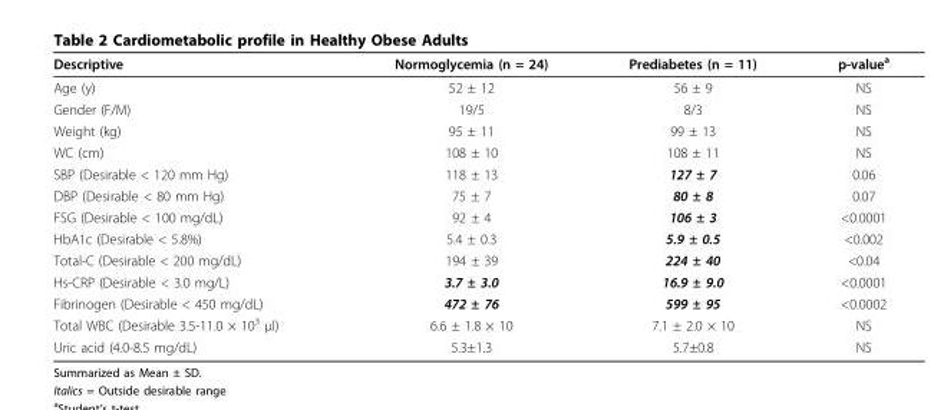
<table><thead><tr><td>Descriptive</td><td>Normoglycemia (n = 24)</td><td>Prediabetes (n = 11)</td><td>p-value<sup>a</sup></td></tr></thead><tbody><tr><td>Age (y)</td><td>52 ± 12</td><td>56 ± 9</td><td>NS</td></tr><tr><td>Gender (F/M)</td><td>19/5</td><td>8/3</td><td>NS</td></tr><tr><td>Weight (kg)</td><td>95 ± 11</td><td>99 ± 13</td><td>NS</td></tr><tr><td>WC (cm)</td><td>108 ± 10</td><td>108 ± 11</td><td>NS</td></tr><tr><td>SBP (Desirable &lt; 120 mm Hg)</td><td>118 ± 13</td><td>127 ± 7</td><td>0.06</td></tr><tr><td>DBP (Desirable &lt; 80 mm Hg)</td><td>75 ± 7</td><td>80 ± 8</td><td>0.07</td></tr><tr><td>FSG (Desirable &lt; 100 mg/dL)</td><td>92 ± 4</td><td>106 ± 3</td><td>&lt;0.0001</td></tr><tr><td>HbA1c (Desirable &lt; 5.8%)</td><td>5.4 ± 0.3</td><td>5.9 ± 0.5</td><td>&lt;0.002</td></tr><tr><td>Total-C (Desirable &lt; 200 mg/dL)</td><td>194 ± 39</td><td>224 ± 40</td><td>&lt;0.04</td></tr><tr><td>Hs-CRP (Desirable &lt; 3.0 mg/L)</td><td>3.7 ± 3.0</td><td>16.9 ± 9.0</td><td>&lt;0.0001</td></tr><tr><td>Fibrinogen (Desirable &lt; 450 mg/dL)</td><td>472 ± 76</td><td>599 ± 95</td><td>&lt;0.0002</td></tr><tr><td>Total WBC (Desirable 3.5-11.0 × 10<sup>3</sup> μl)</td><td>6.6 ± 1.8 × 10</td><td>7.1 ± 2.0 × 10</td><td>NS</td></tr><tr><td>Uric acid (4.0-8.5 mg/dL)</td><td>5.3±1.3</td><td>5.7±0.8</td><td>NS</td></tr></tbody></table>